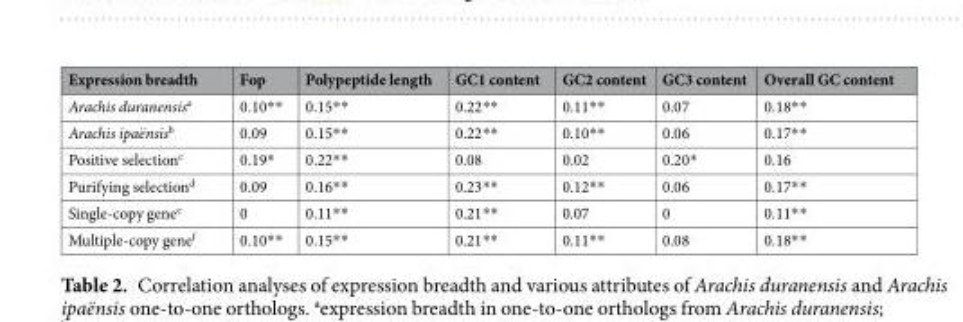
<table><thead><tr><td>Expression breadth</td><td>Fop</td><td>Polypeptide length</td><td>GC1 content</td><td>GC2 content</td><td>GC3 content</td><td>Overall GC content</td></tr></thead><tbody><tr><td>Arachis duranensis<sup>a</sup></td><td>0.10**</td><td>0.15**</td><td>0.22**</td><td>0.11**</td><td>0.07</td><td>0.18**</td></tr><tr><td>Arachis ipaënsis<sup>b</sup></td><td>0.09</td><td>0.15**</td><td>0.22**</td><td>0.10**</td><td>0.06</td><td>0.17**</td></tr><tr><td>Positive selection<sup>c</sup></td><td>0.19*</td><td>0.22**</td><td>0.08</td><td>0.02</td><td>0.20*</td><td>0.16</td></tr><tr><td>Purifying selection<sup>d</sup></td><td>0.09</td><td>0.16**</td><td>0.23**</td><td>0.12**</td><td>0.06</td><td>0.17**</td></tr><tr><td>Single-copy gene<sup>e</sup></td><td>0</td><td>0.11**</td><td>0.21**</td><td>0.07</td><td>0</td><td>0.11**</td></tr><tr><td>Multiple-copy gene<sup>f</sup></td><td>0.10**</td><td>0.15**</td><td>0.21**</td><td>0.11**</td><td>0.08</td><td>0.18**</td></tr></tbody></table>